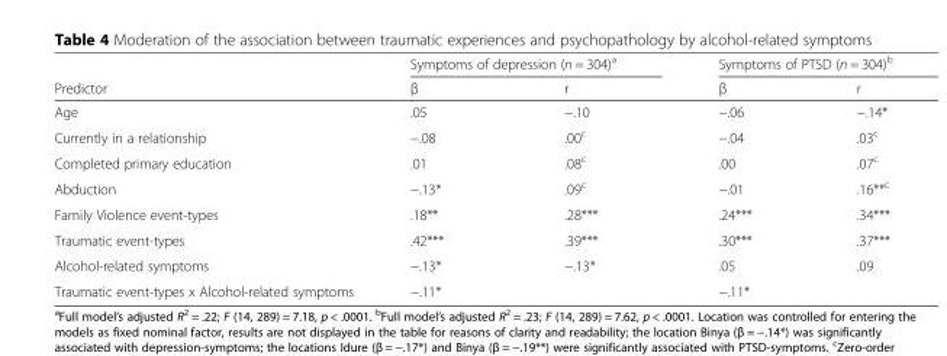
<table><thead><tr><td rowspan="2">Predictor</td><td colspan="2">Symptoms of depression (n = 304)<sup>a</sup></td><td colspan="2">Symptoms of PTSD (n = 304)<sup>b</sup></td></tr><tr><td>β</td><td>r</td><td>β</td><td>r</td></tr></thead><tbody><tr><td>Age</td><td>.05</td><td>−.10</td><td>−.06</td><td>−.14*</td></tr><tr><td>Currently in a relationship</td><td>−.08</td><td>.00<sup>c</sup></td><td>−.04</td><td>.03<sup>c</sup></td></tr><tr><td>Completed primary education</td><td>.01</td><td>.08<sup>c</sup></td><td>.00</td><td>.07<sup>c</sup></td></tr><tr><td>Abduction</td><td>−.13*</td><td>.09<sup>c</sup></td><td>−.01</td><td>.16**<sup>c</sup></td></tr><tr><td>Family Violence event-types</td><td>.18**</td><td>.28***</td><td>.24***</td><td>.34***</td></tr><tr><td>Traumatic event-types</td><td>.42***</td><td>.39***</td><td>.30***</td><td>.37***</td></tr><tr><td>Alcohol-related symptoms</td><td>−.13*</td><td>−.13*</td><td>.05</td><td>.09</td></tr><tr><td>Traumatic event-types x Alcohol-related symptoms</td><td>−.11*</td><td></td><td>−.11*</td><td></td></tr></tbody></table>